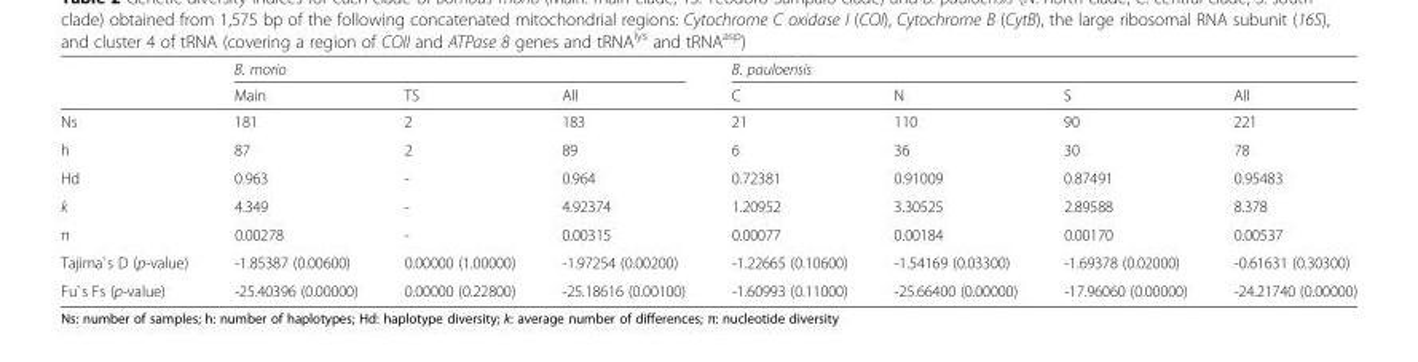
<table><thead><tr><td rowspan="2"></td><td colspan="3">B. morio</td><td colspan="4">B. pauloensis</td></tr><tr><td>Main</td><td>TS</td><td>All</td><td>C</td><td>N</td><td>S</td><td>All</td></tr></thead><tbody><tr><td>Ns</td><td>181</td><td>2</td><td>183</td><td>21</td><td>110</td><td>90</td><td>221</td></tr><tr><td>h</td><td>87</td><td>2</td><td>89</td><td>6</td><td>36</td><td>30</td><td>78</td></tr><tr><td>Hd</td><td>0.963</td><td>-</td><td>0.964</td><td>0.72381</td><td>0.91009</td><td>0.87491</td><td>0.95483</td></tr><tr><td>k</td><td>4.349</td><td>-</td><td>4.92374</td><td>1.20952</td><td>3.30525</td><td>2.89588</td><td>8.378</td></tr><tr><td>π</td><td>0.00278</td><td>-</td><td>0.00315</td><td>0.00077</td><td>0.00184</td><td>0.00170</td><td>0.00537</td></tr><tr><td>Tajima`s D (p-value)</td><td>-1.85387 (0.00600)</td><td>0.00000 (1.00000)</td><td>-1.97254 (0.00200)</td><td>-1.22665 (0.10600)</td><td>-1.54169 (0.03300)</td><td>-1.69378 (0.02000)</td><td>-0.61631 (0.30300)</td></tr><tr><td>Fu`s Fs (p-value)</td><td>-25.40396 (0.00000)</td><td>0.00000 (0.22800)</td><td>-25.18616 (0.00100)</td><td>-1.60993 (0.11000)</td><td>-25.66400 (0.00000)</td><td>-17.96060 (0.00000)</td><td>-24.21740 (0.00000)</td></tr></tbody></table>